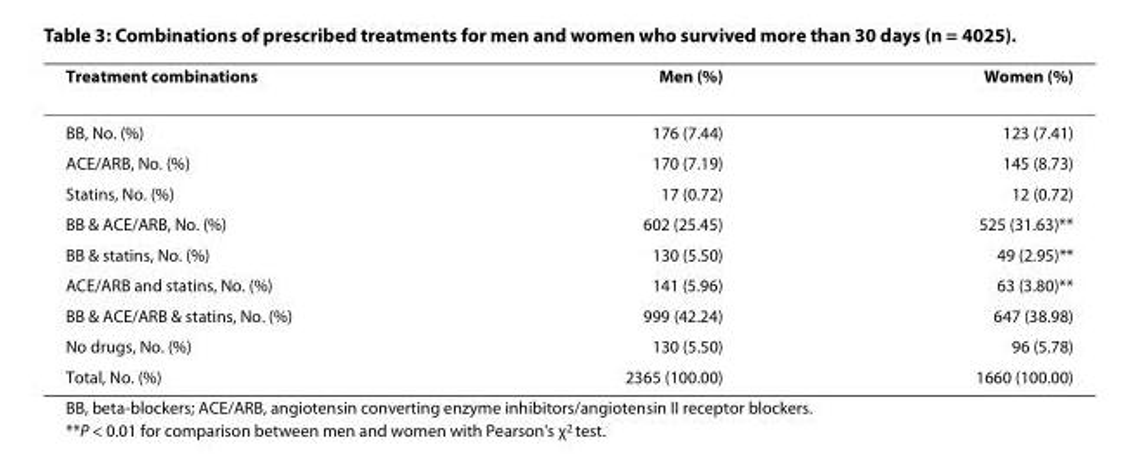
<table><thead><tr><td>Treatment combinations</td><td>Men (%)</td><td>Women (%)</td></tr></thead><tbody><tr><td>BB, No. (%)</td><td>176 (7.44)</td><td>123 (7.41)</td></tr><tr><td>ACE/ARB, No. (%)</td><td>170 (7.19)</td><td>145 (8.73)</td></tr><tr><td>Statins, No. (%)</td><td>17 (0.72)</td><td>12 (0.72)</td></tr><tr><td>BB &amp; ACE/ARB, No. (%)</td><td>602 (25.45)</td><td>525 (31.63)**</td></tr><tr><td>BB &amp; statins, No. (%)</td><td>130 (5.50)</td><td>49 (2.95)**</td></tr><tr><td>ACE/ARB and statins, No. (%)</td><td>141 (5.96)</td><td>63 (3.80)**</td></tr><tr><td>BB &amp; ACE/ARB &amp; statins, No. (%)</td><td>999 (42.24)</td><td>647 (38.98)</td></tr><tr><td>No drugs, No. (%)</td><td>130 (5.50)</td><td>96 (5.78)</td></tr><tr><td>Total, No. (%)</td><td>2365 (100.00)</td><td>1660 (100.00)</td></tr></tbody></table>